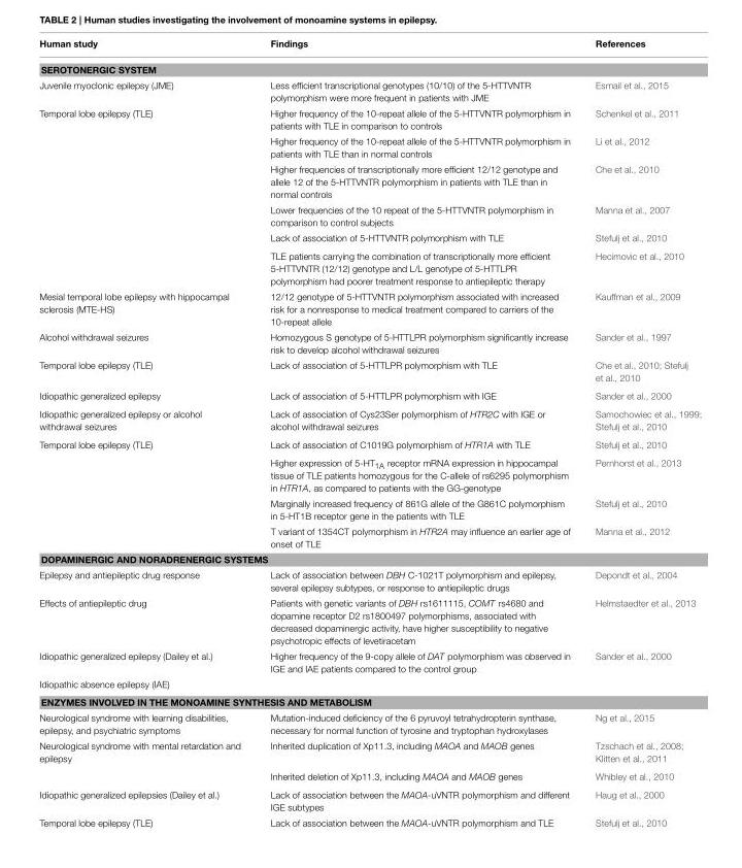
<table><thead><tr><td>Human study</td><td>Findings</td><td>References</td></tr></thead><tbody><tr><td colspan="3">SEROTONERGIC SYSTEM</td></tr><tr><td>Juvenile myoclonic epilepsy (JME)</td><td>Less efficient transcriptional genotypes (10/10) of the 5-HTTVNTR polymorphism were more frequent in patients with JME</td><td>Esmail et al., 2015</td></tr><tr><td rowspan="6">Temporal lobe epilepsy (TLE)</td><td>Higher frequency of the 10-repeat allele of the 5-HTTVNTR polymorphism in patients with TLE in comparison to controls</td><td>Schenkel et al., 2011</td></tr><tr><td>Higher frequency of the 10-repeat allele of the 5-HTTVNTR polymorphism in patients with TLE than in normal controls</td><td>Li et al., 2012</td></tr><tr><td>Higher frequencies of transcriptionally more efficient 12/12 genotype and allele 12 of the 5-HTTVNTR polymorphism in patients with TLE than in normal controls</td><td>Che et al., 2010</td></tr><tr><td>Lower frequencies of the 10 repeat of the 5-HTTVNTR polymorphism in comparison to control subjects</td><td>Manna et al., 2007</td></tr><tr><td>Lack of association of 5-HTTVNTR polymorphism with TLE</td><td>Stefulj et al., 2010</td></tr><tr><td>TLE patients carrying the combination of transcriptionally more efficient 5-HTTVNTR (12/12) genotype and L/L genotype of 5-HTTLPR polymorphism had poorer treatment response to antiepileptic therapy</td><td>Hecimovic et al., 2010</td></tr><tr><td>Mesial temporal lobe epilepsy with hippocampal sclerosis (MTE-HS)</td><td>12/12 genotype of 5-HTTVNTR polymorphism associated with increased risk for a nonresponse to medical treatment compared to carriers of the 10-repeat allele</td><td>Kauffman et al., 2009</td></tr><tr><td>Alcohol withdrawal seizures</td><td>Homozygous S genotype of 5-HTTLPR polymorphism significantly increase risk to develop alcohol withdrawal seizures</td><td>Sander et al., 1997</td></tr><tr><td>Temporal lobe epilepsy (TLE)</td><td>Lack of association of 5-HTTLPR polymorphism with TLE</td><td>Che et al., 2010; Stefulj et al., 2010</td></tr><tr><td>Idiopathic generalized epilepsy</td><td>Lack of association of 5-HTTLPR polymorphism with IGE</td><td>Sander et al., 2000</td></tr><tr><td>Idiopathic generalized epilepsy or alcohol withdrawal seizures</td><td>Lack of association of Cys23Ser polymorphism of HTR2C with IGE or alcohol withdrawal seizures</td><td>Samochowiec et al., 1999; Stefulj et al., 2010</td></tr><tr><td rowspan="4">Temporal lobe epilepsy (TLE)</td><td>Lack of association of C1019G polymorphism of HTR1A with TLE</td><td>Stefulj et al., 2010</td></tr><tr><td>Higher expression of 5-HT<sub>1A</sub> receptor mRNA expression in hippocampal tissue of TLE patients homozygous for the C-allele of rs6295 polymorphism in HTR1A, as compared to patients with the GG-genotype</td><td>Pernhorst et al., 2013</td></tr><tr><td>Marginally increased frequency of 861G allele of the G861C polymorphism in 5-HT1B receptor gene in the patients with TLE</td><td>Stefulj et al., 2010</td></tr><tr><td>T variant of 1354CT polymorphism in HTR2A may influence an earlier age of onset of TLE</td><td>Manna et al., 2012</td></tr><tr><td colspan="3">DOPAMINERGIC AND NORADRENERGIC SYSTEMS</td></tr><tr><td>Epilepsy and antiepileptic drug response</td><td>Lack of association between DBH C-1021T polymorphism and epilepsy, several epilepsy subtypes, or response to antiepileptic drugs</td><td>Depondt et al., 2004</td></tr><tr><td>Effects of antiepileptic drug</td><td>Patients with genetic variants of DBH rs1611115, COMT rs4680 and dopamine receptor D2 rs1800497 polymorphisms, associated with decreased dopaminergic activity, have higher susceptibility to negative psychotropic effects of levetiracetam</td><td>Helmstaedter et al., 2013</td></tr><tr><td>Idiopathic generalized epilepsy (Dailey et al.)</td><td>Higher frequency of the 9-copy allele of DAT polymorphism was observed in IGE and IAE patients compared to the control group</td><td>Sander et al., 2000</td></tr><tr><td colspan="3">Idiopathic absence epilepsy (IAE)</td></tr><tr><td colspan="3">ENZYMES INVOLVED IN THE MONOAMINE SYNTHESIS AND METABOLISM</td></tr><tr><td>Neurological syndrome with learning disabilities, epilepsy, and psychiatric symptoms</td><td>Mutation-induced deficiency of the 6 pyruvoyl tetrahydropterin synthase, necessary for normal function of tyrosine and tryptophan hydroxylases</td><td>Ng et al., 2015</td></tr><tr><td rowspan="2">Neurological syndrome with mental retardation and epilepsy</td><td>Inherited duplication of Xp11.3, including MAOA and MAOB genes</td><td>Tzschach et al., 2008; Klitten et al., 2011</td></tr><tr><td>Inherited deletion of Xp11.3, including MAOA and MAOB genes</td><td>Whibley et al., 2010</td></tr><tr><td>Idiopathic generalized epilepsies (Dailey et al.)</td><td>Lack of association between the MAOA-uVNTR polymorphism and different IGE subtypes</td><td>Haug et al., 2000</td></tr><tr><td>Temporal lobe epilepsy (TLE)</td><td>Lack of association between the MAOA-uVNTR polymorphism and TLE</td><td>Stefulj et al., 2010</td></tr></tbody></table>